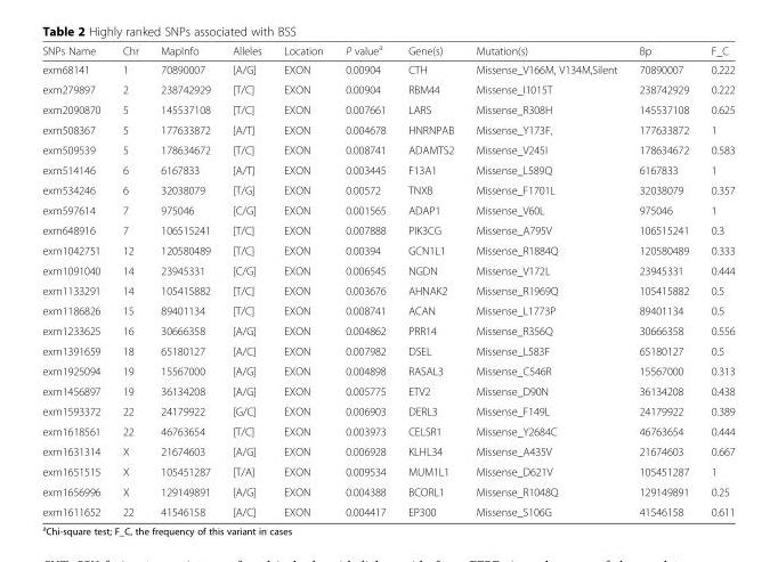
<table><thead><tr><td>SNPs Name</td><td>Chr</td><td>MapInfo</td><td>Alleles</td><td>Location</td><td>P value<sup>a</sup></td><td>Gene(s)</td><td>Mutation(s)</td><td>Bp</td><td>F_C</td></tr></thead><tbody><tr><td>exm68141</td><td>1</td><td>70890007</td><td>[A/G]</td><td>EXON</td><td>0.00904</td><td>CTH</td><td>Missense_V166M, V134M,Silent</td><td>70890007</td><td>0.222</td></tr><tr><td>exm279897</td><td>2</td><td>238742929</td><td>[T/C]</td><td>EXON</td><td>0.00904</td><td>RBM44</td><td>Missense_I1015T</td><td>238742929</td><td>0.222</td></tr><tr><td>exm2090870</td><td>5</td><td>145537108</td><td>[T/C]</td><td>EXON</td><td>0.007661</td><td>LARS</td><td>Missense_R308H</td><td>145537108</td><td>0.625</td></tr><tr><td>exm508367</td><td>5</td><td>177633872</td><td>[A/T]</td><td>EXON</td><td>0.004678</td><td>HNRNPAB</td><td>Missense_Y173F,</td><td>177633872</td><td>1</td></tr><tr><td>exm509539</td><td>5</td><td>178634672</td><td>[T/C]</td><td>EXON</td><td>0.008741</td><td>ADAMTS2</td><td>Missense_V245I</td><td>178634672</td><td>0.583</td></tr><tr><td>exm514146</td><td>6</td><td>6167833</td><td>[A/T]</td><td>EXON</td><td>0.003445</td><td>F13A1</td><td>Missense_L589Q</td><td>6167833</td><td>1</td></tr><tr><td>exm534246</td><td>6</td><td>32038079</td><td>[T/G]</td><td>EXON</td><td>0.00572</td><td>TNXB</td><td>Missense_F1701L</td><td>32038079</td><td>0.357</td></tr><tr><td>exm597614</td><td>7</td><td>975046</td><td>[C/G]</td><td>EXON</td><td>0.001565</td><td>ADAP1</td><td>Missense_V60L</td><td>975046</td><td>1</td></tr><tr><td>exm648916</td><td>7</td><td>106515241</td><td>[T/C]</td><td>EXON</td><td>0.007888</td><td>PIK3CG</td><td>Missense_A795V</td><td>106515241</td><td>0.3</td></tr><tr><td>exm1042751</td><td>12</td><td>120580489</td><td>[T/C]</td><td>EXON</td><td>0.00394</td><td>GCN1L1</td><td>Missense_R1884Q</td><td>120580489</td><td>0.333</td></tr><tr><td>exm1091040</td><td>14</td><td>23945331</td><td>[C/G]</td><td>EXON</td><td>0.006545</td><td>NGDN</td><td>Missense_V172L</td><td>23945331</td><td>0.444</td></tr><tr><td>exm1133291</td><td>14</td><td>105415882</td><td>[T/C]</td><td>EXON</td><td>0.003676</td><td>AHNAK2</td><td>Missense_R1969Q</td><td>105415882</td><td>0.5</td></tr><tr><td>exm1186826</td><td>15</td><td>89401134</td><td>[T/C]</td><td>EXON</td><td>0.008741</td><td>ACAN</td><td>Missense_L1773P</td><td>89401134</td><td>0.5</td></tr><tr><td>exm1233625</td><td>16</td><td>30666358</td><td>[A/G]</td><td>EXON</td><td>0.004862</td><td>PRR14</td><td>Missense_R356Q</td><td>30666358</td><td>0.556</td></tr><tr><td>exm1391659</td><td>18</td><td>65180127</td><td>[A/C]</td><td>EXON</td><td>0.007982</td><td>DSEL</td><td>Missense_L583F</td><td>65180127</td><td>0.5</td></tr><tr><td>exm1925094</td><td>19</td><td>15567000</td><td>[A/G]</td><td>EXON</td><td>0.004898</td><td>RASAL3</td><td>Missense_C546R</td><td>15567000</td><td>0.313</td></tr><tr><td>exm1456897</td><td>19</td><td>36134208</td><td>[A/G]</td><td>EXON</td><td>0.005775</td><td>ETV2</td><td>Missense_D90N</td><td>36134208</td><td>0.438</td></tr><tr><td>exm1593372</td><td>22</td><td>24179922</td><td>[G/C]</td><td>EXON</td><td>0.006903</td><td>DERL3</td><td>Missense_F149L</td><td>24179922</td><td>0.389</td></tr><tr><td>exm1618561</td><td>22</td><td>46763654</td><td>[T/C]</td><td>EXON</td><td>0.003973</td><td>CELSR1</td><td>Missense_Y2684C</td><td>46763654</td><td>0.444</td></tr><tr><td>exm1631314</td><td>X</td><td>21674603</td><td>[A/G]</td><td>EXON</td><td>0.006928</td><td>KLHL34</td><td>Missense_A435V</td><td>21674603</td><td>0.667</td></tr><tr><td>exm1651515</td><td>X</td><td>105451287</td><td>[T/A]</td><td>EXON</td><td>0.009534</td><td>MUM1L1</td><td>Missense_D621V</td><td>105451287</td><td>1</td></tr><tr><td>exm1656996</td><td>X</td><td>129149891</td><td>[A/G]</td><td>EXON</td><td>0.004388</td><td>BCORL1</td><td>Missense_R1048Q</td><td>129149891</td><td>0.25</td></tr><tr><td>exm1611652</td><td>22</td><td>41546158</td><td>[A/C]</td><td>EXON</td><td>0.004417</td><td>EP300</td><td>Missense_S106G</td><td>41546158</td><td>0.611</td></tr></tbody></table>